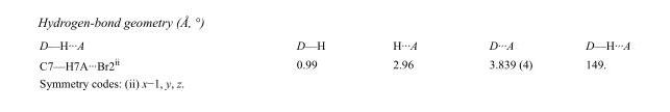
<table><tbody><tr><td>D—H···A</td><td>D—H</td><td>H···A</td><td>D···A</td><td>D—H···A</td></tr><tr><td>C7—H7A···Br2<sup>ii</sup></td><td>0.99</td><td>2.96</td><td>3.839 (4)</td><td>149.</td></tr></tbody></table>